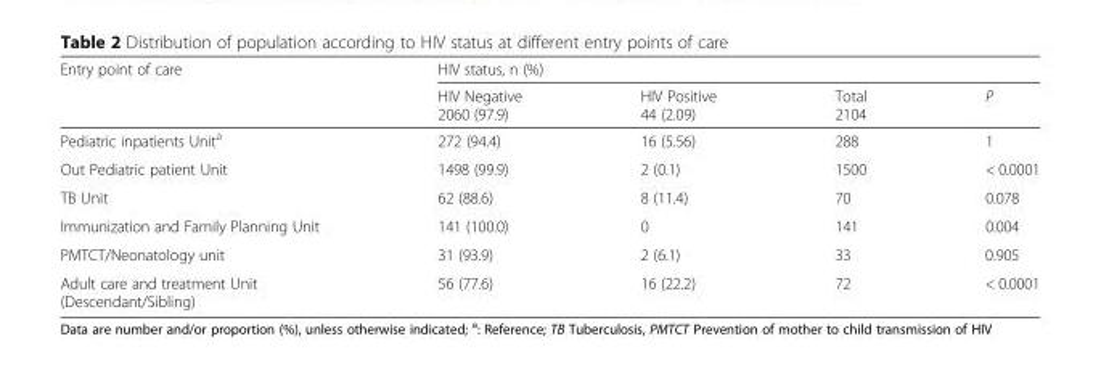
<table><thead><tr><td rowspan="2">Entry point of care</td><td colspan="4">HIV status, n (%)</td></tr><tr><td>HIV Negative 2060 (97.9)</td><td>HIV Positive 44 (2.09)</td><td>Total 2104</td><td>P</td></tr></thead><tbody><tr><td>Pediatric inpatients Unit<sup>a</sup></td><td>272 (94.4)</td><td>16 (5.56)</td><td>288</td><td>1</td></tr><tr><td>Out Pediatric patient Unit</td><td>1498 (99.9)</td><td>2 (0.1)</td><td>1500</td><td>&lt; 0.0001</td></tr><tr><td>TB Unit</td><td>62 (88.6)</td><td>8 (11.4)</td><td>70</td><td>0.078</td></tr><tr><td>Immunization and Family Planning Unit</td><td>141 (100.0)</td><td>0</td><td>141</td><td>0.004</td></tr><tr><td>PMTCT/Neonatology unit</td><td>31 (93.9)</td><td>2 (6.1)</td><td>33</td><td>0.905</td></tr><tr><td>Adult care and treatment Unit (Descendant/Sibling)</td><td>56 (77.6)</td><td>16 (22.2)</td><td>72</td><td>&lt; 0.0001</td></tr></tbody></table>